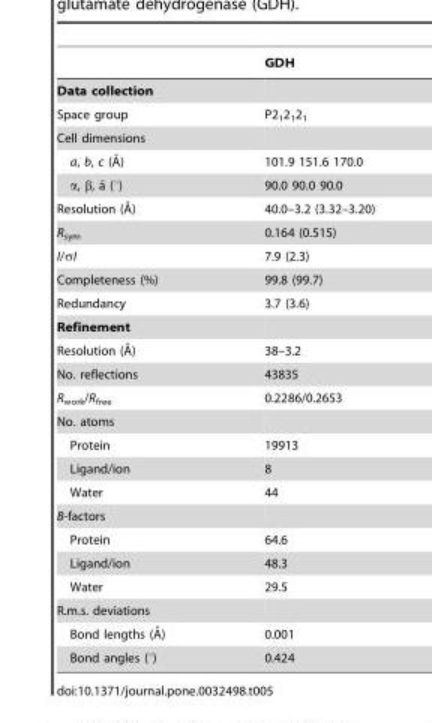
<table><thead><tr><td></td><td>GDH</td></tr></thead><tbody><tr><td colspan="2">Data collection</td></tr><tr><td>Space group</td><td>P2<sub>1</sub>2<sub>1</sub>2<sub>1</sub></td></tr><tr><td colspan="2">Cell dimensions</td></tr><tr><td>a, b, c (A˚)</td><td>101.9 151.6 170.0</td></tr><tr><td>a, b, a˜ (u)</td><td>90.0 90.0 90.0</td></tr><tr><td>Resolution (A˚)</td><td>40.0–3.2 (3.32–3.20)</td></tr><tr><td>R<sub>sym</sub></td><td>0.164 (0.515)</td></tr><tr><td>I/σI</td><td>7.9 (2.3)</td></tr><tr><td>Completeness (%)</td><td>99.8 (99.7)</td></tr><tr><td>Redundancy</td><td>3.7 (3.6)</td></tr><tr><td colspan="2">Refinement</td></tr><tr><td>Resolution (A˚)</td><td>38–3.2</td></tr><tr><td>No. reflections</td><td>43835</td></tr><tr><td>R<sub>work</sub>/R<sub>free</sub></td><td>0.2286/0.2653</td></tr><tr><td colspan="2">No. atoms</td></tr><tr><td>Protein</td><td>19913</td></tr><tr><td>Ligand/ion</td><td>8</td></tr><tr><td>Water</td><td>44</td></tr><tr><td colspan="2">B-factors</td></tr><tr><td>Protein</td><td>64.6</td></tr><tr><td>Ligand/ion</td><td>48.3</td></tr><tr><td>Water</td><td>29.5</td></tr><tr><td colspan="2">R.m.s. deviations</td></tr><tr><td>Bond lengths (A˚)</td><td>0.001</td></tr><tr><td>Bond angles (°)</td><td>0.424</td></tr></tbody></table>